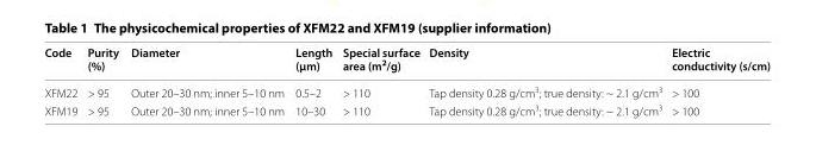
<table><thead><tr><td>Code</td><td>Purity (%)</td><td>Diameter</td><td>Length (μm)</td><td>Special surface area (m<sup>2</sup>/g)</td><td>Density</td><td>Electric conductivity (s/cm)</td></tr></thead><tbody><tr><td>XFM22</td><td>&gt; 95</td><td>Outer 20–30 nm; inner 5–10 nm</td><td>0.5–2</td><td>&gt; 110</td><td>Tap density 0.28 g/cm<sup>3</sup>; true density: ~ 2.1 g/cm<sup>3</sup></td><td>&gt; 100</td></tr><tr><td>XFM19</td><td>&gt; 95</td><td>Outer 20–30 nm; inner 5–10 nm</td><td>10–30</td><td>&gt; 110</td><td>Tap density 0.28 g/cm<sup>3</sup>; true density: ~ 2.1 g/cm<sup>3</sup></td><td>&gt; 100</td></tr></tbody></table>